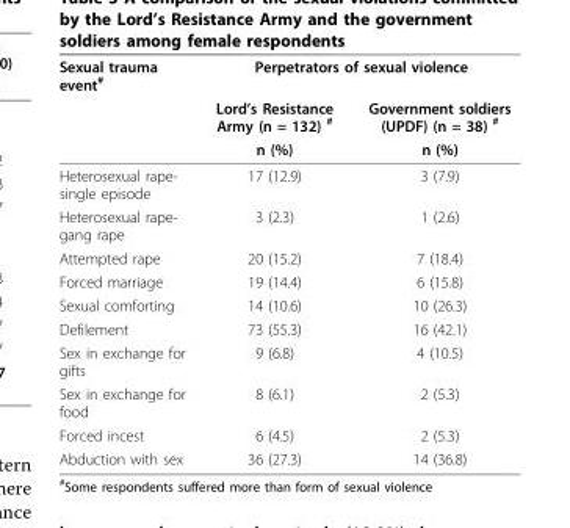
<table><thead><tr><td rowspan="3">Sexual trauma event<sup>#</sup></td><td colspan="2">Perpetrators of sexual violence</td></tr><tr><td rowspan="2">Lord’s Resistance Army (n = 132) <sup>#</sup> n (%)</td><td rowspan="2">Government soldiers (UPDF) (n = 38) <sup>#</sup> n (%)</td></tr><tr></tr></thead><tbody><tr><td>Heterosexual rape- single episode</td><td>17 (12.9)</td><td>3 (7.9)</td></tr><tr><td>Heterosexual rape- gang rape</td><td>3 (2.3)</td><td>1 (2.6)</td></tr><tr><td>Attempted rape</td><td>20 (15.2)</td><td>7 (18.4)</td></tr><tr><td>Forced marriage</td><td>19 (14.4)</td><td>6 (15.8)</td></tr><tr><td>Sexual comforting</td><td>14 (10.6)</td><td>10 (26.3)</td></tr><tr><td>Defilement</td><td>73 (55.3)</td><td>16 (42.1)</td></tr><tr><td>Sex in exchange for gifts</td><td>9 (6.8)</td><td>4 (10.5)</td></tr><tr><td>Sex in exchange for food</td><td>8 (6.1)</td><td>2 (5.3)</td></tr><tr><td>Forced incest</td><td>6 (4.5)</td><td>2 (5.3)</td></tr><tr><td>Abduction with sex</td><td>36 (27.3)</td><td>14 (36.8)</td></tr></tbody></table>